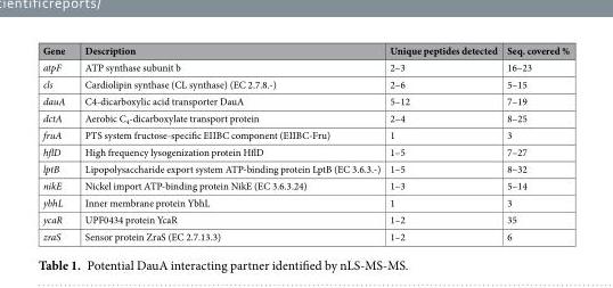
<table><thead><tr><td>Gene</td><td>Description</td><td>Unique peptides detected</td><td>Seq. covered %</td></tr></thead><tbody><tr><td>atpF</td><td>ATP synthase subunit b</td><td>2–3</td><td>16–23</td></tr><tr><td>cls</td><td>Cardiolipin synthase (CL synthase) (EC 2.7.8.-)</td><td>2–6</td><td>5–15</td></tr><tr><td>dauA</td><td>C4-dicarboxylic acid transporter DauA</td><td>5–12</td><td>7–19</td></tr><tr><td>dctA</td><td>Aerobic C<sub>4</sub>-dicarboxylate transport protein</td><td>2–4</td><td>8–25</td></tr><tr><td>fruA</td><td>PTS system fructose-specific EIIBC component (EIIBC-Fru)</td><td>1</td><td>3</td></tr><tr><td>hflD</td><td>High frequency lysogenization protein HflD</td><td>1–5</td><td>7–27</td></tr><tr><td>lptB</td><td>Lipopolysaccharide export system ATP-binding protein LptB (EC 3.6.3.-)</td><td>1–5</td><td>8–32</td></tr><tr><td>nikE</td><td>Nickel import ATP-binding protein NikE (EC 3.6.3.24)</td><td>1–3</td><td>5–14</td></tr><tr><td>ybhL</td><td>Inner membrane protein YbhL</td><td>1</td><td>3</td></tr><tr><td>ycaR</td><td>UPF0434 protein YcaR</td><td>1–2</td><td>35</td></tr><tr><td>zraS</td><td>Sensor protein ZraS (EC 2.7.13.3)</td><td>1–2</td><td>6</td></tr></tbody></table>